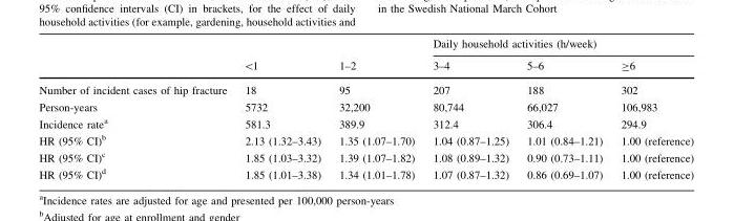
<table><thead><tr><td rowspan="2"></td><td rowspan="2">&lt;1</td><td rowspan="2">1–2</td><td colspan="3">Daily household activities (h/week)</td></tr><tr><td>3–4</td><td>5–6</td><td>≥6</td></tr></thead><tbody><tr><td>Number of incident cases of hip fracture</td><td>18</td><td>95</td><td>207</td><td>188</td><td>302</td></tr><tr><td>Person-years</td><td>5732</td><td>32,200</td><td>80,744</td><td>66,027</td><td>106,983</td></tr><tr><td>Incidence rate<sup>a</sup></td><td>581.3</td><td>389.9</td><td>312.4</td><td>306.4</td><td>294.9</td></tr><tr><td>HR (95% CI)<sup>b</sup></td><td>2.13 (1.32–3.43)</td><td>1.35 (1.07–1.70)</td><td>1.04 (0.87–1.25)</td><td>1.01 (0.84–1.21)</td><td>1.00 (reference)</td></tr><tr><td>HR (95% CI)<sup>c</sup></td><td>1.85 (1.03–3.32)</td><td>1.39 (1.07–1.82)</td><td>1.08 (0.89–1.32)</td><td>0.90 (0.73–1.11)</td><td>1.00 (reference)</td></tr><tr><td>HR (95% CI)<sup>d</sup></td><td>1.85 (1.01–3.38)</td><td>1.34 (1.01–1.78)</td><td>1.07 (0.87–1.32)</td><td>0.86 (0.69–1.07)</td><td>1.00 (reference)</td></tr></tbody></table>